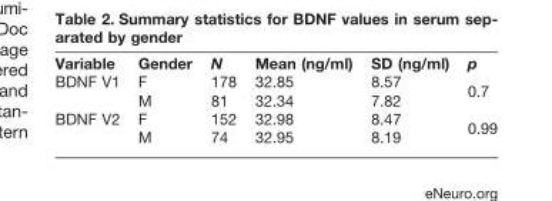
<table><thead><tr><td>Variable</td><td>Gender</td><td>N</td><td>Mean (ng/ml)</td><td>SD (ng/ml)</td><td>p</td></tr></thead><tbody><tr><td rowspan="2">BDNF V1</td><td>F</td><td>178</td><td>32.85</td><td>8.57</td><td rowspan="2">0.7</td></tr><tr><td>M</td><td>81</td><td>32.34</td><td>7.82</td></tr><tr><td rowspan="2">BDNF V2</td><td>F</td><td>152</td><td>32.98</td><td>8.47</td><td rowspan="2">0.99</td></tr><tr><td>M</td><td>74</td><td>32.95</td><td>8.19</td></tr></tbody></table>